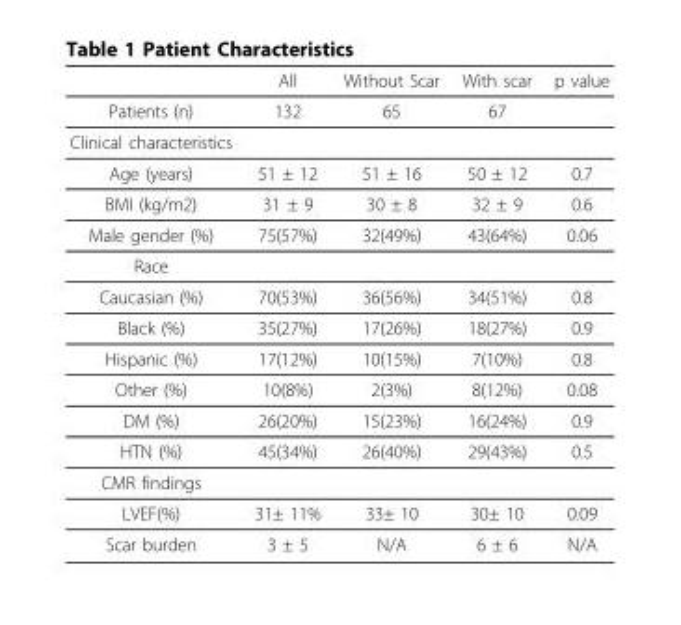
<table><thead><tr><td></td><td>All</td><td>Without Scar</td><td>With scar</td><td>p value</td></tr></thead><tbody><tr><td>Patients (n)</td><td>132</td><td>65</td><td>67</td><td></td></tr><tr><td colspan="5">Clinical characteristics</td></tr><tr><td>Age (years)</td><td>51 ± 12</td><td>51 ± 16</td><td>50 ± 12</td><td>0.7</td></tr><tr><td>BMI (kg/m2)</td><td>31 ± 9</td><td>30 ± 8</td><td>32 ± 9</td><td>0.6</td></tr><tr><td>Male gender (%)</td><td>75(57%)</td><td>32(49%)</td><td>43(64%)</td><td>0.06</td></tr><tr><td colspan="5">Race</td></tr><tr><td>Caucasian (%)</td><td>70(53%)</td><td>36(56%)</td><td>34(51%)</td><td>0.8</td></tr><tr><td>Black (%)</td><td>35(27%)</td><td>17(26%)</td><td>18(27%)</td><td>0.9</td></tr><tr><td>Hispanic (%)</td><td>17(12%)</td><td>10(15%)</td><td>7(10%)</td><td>0.8</td></tr><tr><td>Other (%)</td><td>10(8%)</td><td>2(3%)</td><td>8(12%)</td><td>0.08</td></tr><tr><td>DM (%)</td><td>26(20%)</td><td>15(23%)</td><td>16(24%)</td><td>0.9</td></tr><tr><td>HTN (%)</td><td>45(34%)</td><td>26(40%)</td><td>29(43%)</td><td>0.5</td></tr><tr><td colspan="5">CMR findings</td></tr><tr><td>LVEF(%)</td><td>31± 11%</td><td>33± 10</td><td>30± 10</td><td>0.09</td></tr><tr><td>Scar burden</td><td>3 ± 5</td><td>N/A</td><td>6 ± 6</td><td>N/A</td></tr></tbody></table>